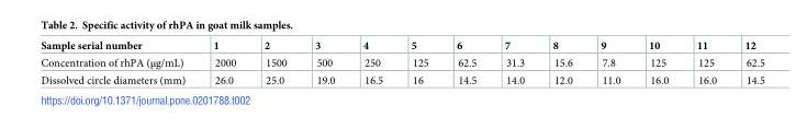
<table><thead><tr><td>Sample serial number</td><td>1</td><td>2</td><td>3</td><td>4</td><td>5</td><td>6</td><td>7</td><td>8</td><td>9</td><td>10</td><td>11</td><td>12</td></tr></thead><tbody><tr><td>Concentration of rhPA (μg/mL)</td><td>2000</td><td>1500</td><td>500</td><td>250</td><td>125</td><td>62.5</td><td>31.3</td><td>15.6</td><td>7.8</td><td>125</td><td>125</td><td>62.5</td></tr><tr><td>Dissolved circle diameters (mm)</td><td>26.0</td><td>25.0</td><td>19.0</td><td>16.5</td><td>16</td><td>14.5</td><td>14.0</td><td>12.0</td><td>11.0</td><td>16.0</td><td>16.0</td><td>14.5</td></tr></tbody></table>